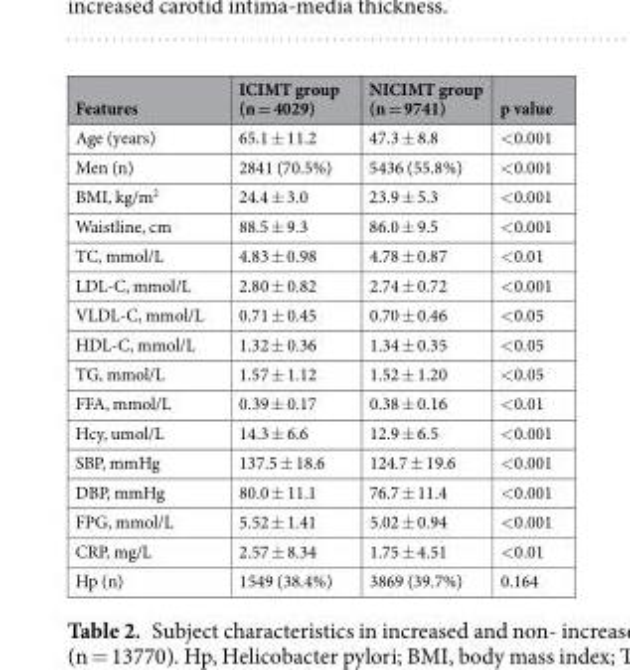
<table><thead><tr><td>Features</td><td>ICIMT group (n = 4029)</td><td>NICIMT group (n = 9741)</td><td>p value</td></tr></thead><tbody><tr><td>Age (years)</td><td>65.1 ± 11.2</td><td>47.3 ± 8.8</td><td>&lt;0.001</td></tr><tr><td>Men (n)</td><td>2841 (70.5%)</td><td>5436 (55.8%)</td><td>&lt;0.001</td></tr><tr><td>BMI, kg/m<sup>2</sup></td><td>24.4 ± 3.0</td><td>23.9 ± 5.3</td><td>&lt;0.001</td></tr><tr><td>Waistline, cm</td><td>88.5 ± 9.3</td><td>86.0 ± 9.5</td><td>&lt;0.001</td></tr><tr><td>TC, mmol/L</td><td>4.83 ± 0.98</td><td>4.78 ± 0.87</td><td>&lt;0.01</td></tr><tr><td>LDL-C, mmol/L</td><td>2.80 ± 0.82</td><td>2.74 ± 0.72</td><td>&lt;0.001</td></tr><tr><td>VLDL-C, mmol/L</td><td>0.71 ± 0.45</td><td>0.70 ± 0.46</td><td>&lt;0.05</td></tr><tr><td>HDL-C, mmol/L</td><td>1.32 ± 0.36</td><td>1.34 ± 0.35</td><td>&lt;0.05</td></tr><tr><td>TG, mmol/L</td><td>1.57 ± 1.12</td><td>1.52 ± 1.20</td><td>&lt;0.05</td></tr><tr><td>FFA, mmol/L</td><td>0.39 ± 0.17</td><td>0.38 ± 0.16</td><td>&lt;0.01</td></tr><tr><td>Hcy, umol/L</td><td>14.3 ± 6.6</td><td>12.9 ± 6.5</td><td>&lt;0.001</td></tr><tr><td>SBP, mmHg</td><td>137.5 ± 18.6</td><td>124.7 ± 19.6</td><td>&lt;0.001</td></tr><tr><td>DBP, mmHg</td><td>80.0 ± 11.1</td><td>76.7 ± 11.4</td><td>&lt;0.001</td></tr><tr><td>FPG, mmol/L</td><td>5.52 ± 1.41</td><td>5.02 ± 0.94</td><td>&lt;0.001</td></tr><tr><td>CRP, mg/L</td><td>2.57 ± 8.34</td><td>1.75 ± 4.51</td><td>&lt;0.01</td></tr><tr><td>Hp (n)</td><td>1549 (38.4%)</td><td>3869 (39.7%)</td><td>0.164</td></tr></tbody></table>